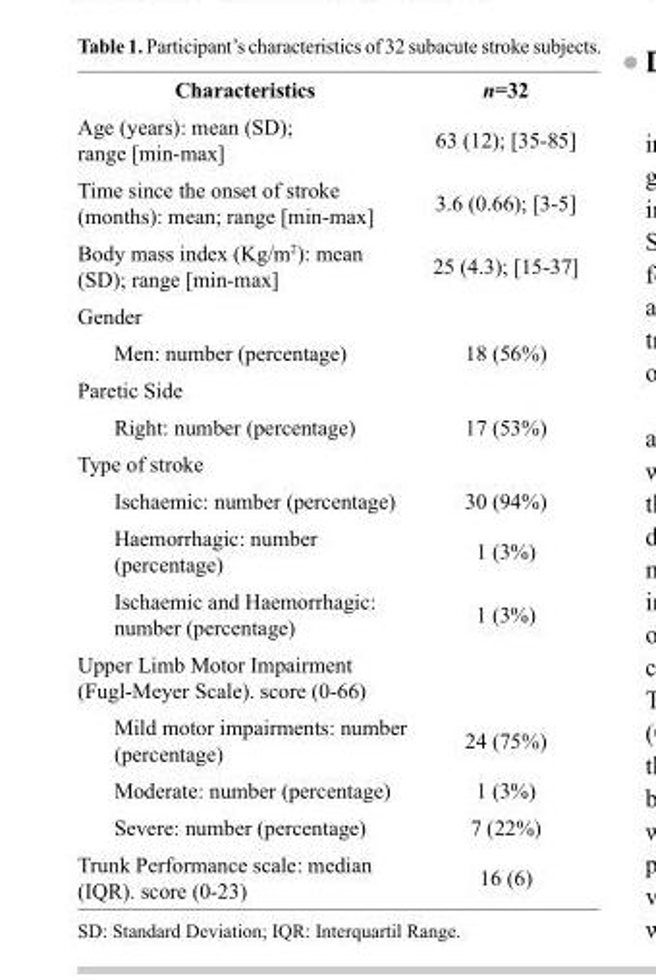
<table><thead><tr><td>Characteristics</td><td>n=32</td></tr></thead><tbody><tr><td>Age (years): mean (SD); range [min-max]</td><td>63 (12); [35-85]</td></tr><tr><td>Time since the onset of stroke (months): mean; range [min-max]</td><td>3.6 (0.66); [3-5]</td></tr><tr><td>Body mass index (Kg/m<sup>2</sup>): mean (SD); range [min-max]</td><td>25 (4.3); [15-37]</td></tr><tr><td colspan="2">Gender</td></tr><tr><td>Men: number (percentage)</td><td>18 (56%)</td></tr><tr><td colspan="2">Paretic Side</td></tr><tr><td>Right: number (percentage)</td><td>17 (53%)</td></tr><tr><td colspan="2">Type of stroke</td></tr><tr><td>Ischaemic: number (percentage)</td><td>30 (94%)</td></tr><tr><td>Haemorrhagic: number (percentage)</td><td>1 (3%)</td></tr><tr><td>Ischaemic and Haemorrhagic: number (percentage)</td><td>1 (3%)</td></tr><tr><td colspan="2">Upper Limb Motor Impairment (Fugl-Meyer Scale). score (0-66)</td></tr><tr><td>Mild motor impairments: number (percentage)</td><td>24 (75%)</td></tr><tr><td>Moderate: number (percentage)</td><td>1 (3%)</td></tr><tr><td>Severe: number (percentage)</td><td>7 (22%)</td></tr><tr><td>Trunk Performance scale: median (IQR). score (0-23)</td><td>16 (6)</td></tr></tbody></table>